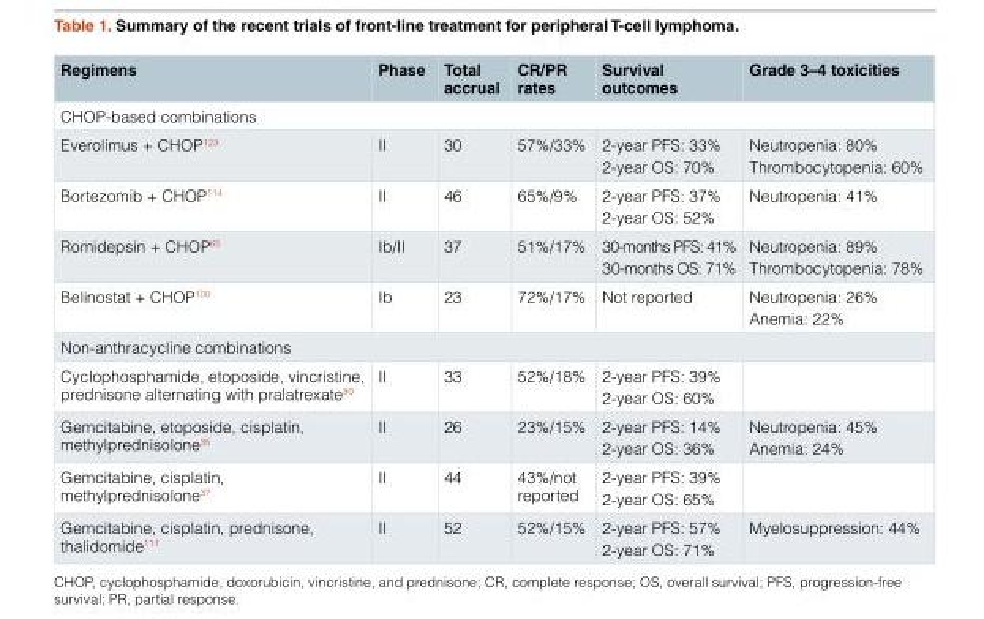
<table><thead><tr><td>Regimens</td><td>Phase</td><td>Total accrual</td><td>CR/PR rates</td><td>Survival outcomes</td><td>Grade 3–4 toxicities</td></tr></thead><tbody><tr><td colspan="6">CHOP-based combinations</td></tr><tr><td>Everolimus + CHOP<sup>123</sup></td><td>II</td><td>30</td><td>57%/33%</td><td>2-year PFS: 33% 2-year OS: 70%</td><td>Neutropenia: 80% Thrombocytopenia: 60%</td></tr><tr><td>Bortezomib + CHOP<sup>114</sup></td><td>II</td><td>46</td><td>65%/9%</td><td>2-year PFS: 37% 2-year OS: 52%</td><td>Neutropenia: 41%</td></tr><tr><td>Romidepsin + CHOP<sup>65</sup></td><td>Ib/II</td><td>37</td><td>51%/17%</td><td>30-months PFS: 41% 30-months OS: 71%</td><td>Neutropenia: 89% Thrombocytopenia: 78%</td></tr><tr><td>Belinostat + CHOP<sup>100</sup></td><td>Ib</td><td>23</td><td>72%/17%</td><td>Not reported</td><td>Neutropenia: 26% Anemia: 22%</td></tr><tr><td colspan="6">Non-anthracycline combinations</td></tr><tr><td>Cyclophosphamide, etoposide, vincristine, prednisone alternating with pralatrexate<sup>80</sup></td><td>II</td><td>33</td><td>52%/18%</td><td>2-year PFS: 39% 2-year OS: 60%</td><td></td></tr><tr><td>Gemcitabine, etoposide, cisplatin, methylprednisolone<sup>35</sup></td><td>II</td><td>26</td><td>23%/15%</td><td>2-year PFS: 14% 2-year OS: 36%</td><td>Neutropenia: 45% Anemia: 24%</td></tr><tr><td>Gemcitabine, cisplatin, methylprednisolone<sup>37</sup></td><td>II</td><td>44</td><td>43%/not reported</td><td>2-year PFS: 39% 2-year OS: 65%</td><td></td></tr><tr><td>Gemcitabine, cisplatin, prednisone, thalidomide<sup>111</sup></td><td>II</td><td>52</td><td>52%/15%</td><td>2-year PFS: 57% 2-year OS: 71%</td><td>Myelosuppression: 44%</td></tr></tbody></table>